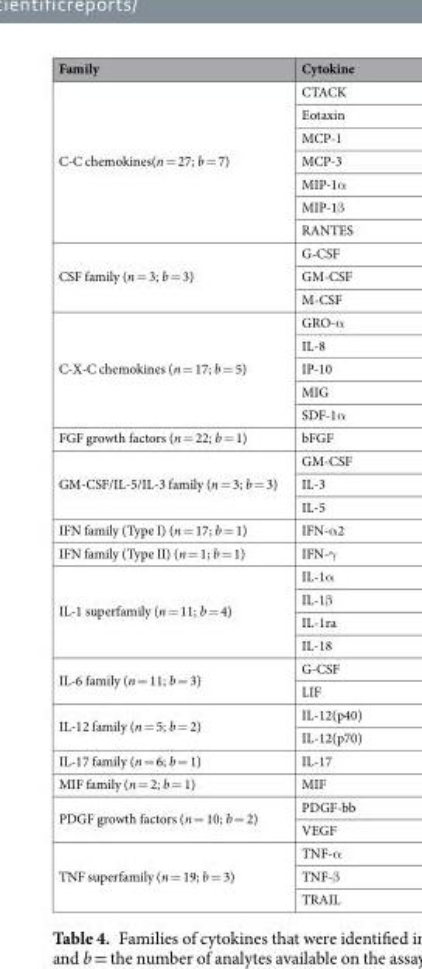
<table><thead><tr><td>Family</td><td>Cytokine</td></tr></thead><tbody><tr><td rowspan="7">C-C chemokines(n = 27; b = 7)</td><td>CTACK</td></tr><tr><td>Eotaxin</td></tr><tr><td>MCP-1</td></tr><tr><td>MCP-3</td></tr><tr><td>MIP-1α</td></tr><tr><td>MIP-1β</td></tr><tr><td>RANTES</td></tr><tr><td rowspan="3">CSF family (n = 3; b = 3)</td><td>G-CSF</td></tr><tr><td>GM-CSF</td></tr><tr><td>M-CSF</td></tr><tr><td rowspan="5">C-X-C chemokines (n = 17; b = 5)</td><td>GRO-α</td></tr><tr><td>IL-8</td></tr><tr><td>IP-10</td></tr><tr><td>MIG</td></tr><tr><td>SDF-1α</td></tr><tr><td>FGF growth factors (n = 22; b = 1)</td><td>bFGF</td></tr><tr><td rowspan="3">GM-CSF/IL-5/IL-3 family (n = 3; b = 3)</td><td>GM-CSF</td></tr><tr><td>IL-3</td></tr><tr><td>IL-5</td></tr><tr><td>IFN family (Type I) (n = 17; b = 1)</td><td>IFN-α2</td></tr><tr><td>IFN family (Type II) (n = 1; b = 1)</td><td>IFN-γ</td></tr><tr><td rowspan="4">IL-1 superfamily (n = 11; b = 4)</td><td>IL-1α</td></tr><tr><td>IL-1β</td></tr><tr><td>IL-1ra</td></tr><tr><td>IL-18</td></tr><tr><td rowspan="2">IL-6 family (n = 11; b = 3)</td><td>G-CSF</td></tr><tr><td>LIF</td></tr><tr><td rowspan="2">IL-12 family (n = 5; b = 2)</td><td>IL-12(p40)</td></tr><tr><td>IL-12(p70)</td></tr><tr><td>IL-17 family (n = 6; b = 1)</td><td>IL-17</td></tr><tr><td>MIF family (n = 2; b = 1)</td><td>MIF</td></tr><tr><td rowspan="2">PDGF growth factors (n = 10; b = 2)</td><td>PDGF-bb</td></tr><tr><td>VEGF</td></tr><tr><td rowspan="3">TNF superfamily (n = 19; b = 3)</td><td>TNF-α</td></tr><tr><td>TNF-β</td></tr><tr><td>TRAIL</td></tr></tbody></table>